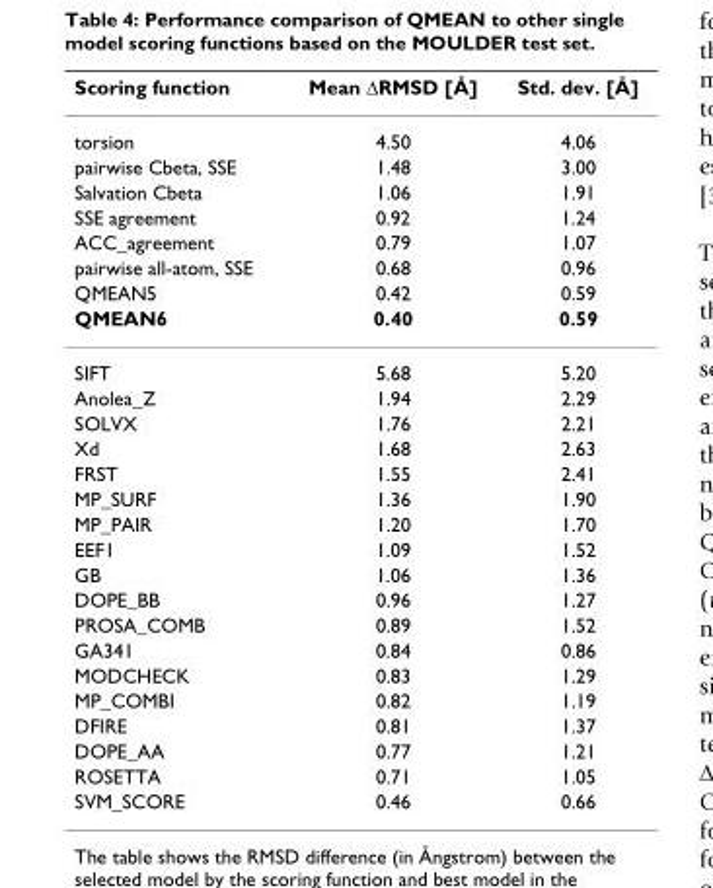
<table><thead><tr><td>Scoring function</td><td>Mean ΔRMSD [Å]</td><td>Std. dev. [Å]</td></tr></thead><tbody><tr><td>torsion</td><td>4.50</td><td>4.06</td></tr><tr><td>pairwise Cbeta, SSE</td><td>1.48</td><td>3.00</td></tr><tr><td>Salvation Cbeta</td><td>1.06</td><td>1.91</td></tr><tr><td>SSE agreement</td><td>0.92</td><td>1.24</td></tr><tr><td>ACC_agreement</td><td>0.79</td><td>1.07</td></tr><tr><td>pairwise all-atom, SSE</td><td>0.68</td><td>0.96</td></tr><tr><td>QMEAN5</td><td>0.42</td><td>0.59</td></tr><tr><td>QMEAN6</td><td>0.40</td><td>0.59</td></tr><tr><td>SIFT</td><td>5.68</td><td>5.20</td></tr><tr><td>Anolea_Z</td><td>1.94</td><td>2.29</td></tr><tr><td>SOLVX</td><td>1.76</td><td>2.21</td></tr><tr><td>Xd</td><td>1.68</td><td>2.63</td></tr><tr><td>FRST</td><td>1.55</td><td>2.41</td></tr><tr><td>MP_SURF</td><td>1.36</td><td>1.90</td></tr><tr><td>MP_PAIR</td><td>1.20</td><td>1.70</td></tr><tr><td>EEF1</td><td>1.09</td><td>1.52</td></tr><tr><td>GB</td><td>1.06</td><td>1.36</td></tr><tr><td>DOPE_BB</td><td>0.96</td><td>1.27</td></tr><tr><td>PROSA_COMB</td><td>0.89</td><td>1.52</td></tr><tr><td>GA341</td><td>0.84</td><td>0.86</td></tr><tr><td>MODCHECK</td><td>0.83</td><td>1.29</td></tr><tr><td>MP_COMBI</td><td>0.82</td><td>1.19</td></tr><tr><td>DFIRE</td><td>0.81</td><td>1.37</td></tr><tr><td>DOPE_AA</td><td>0.77</td><td>1.21</td></tr><tr><td>ROSETTA</td><td>0.71</td><td>1.05</td></tr><tr><td>SVM_SCORE</td><td>0.46</td><td>0.66</td></tr></tbody></table>